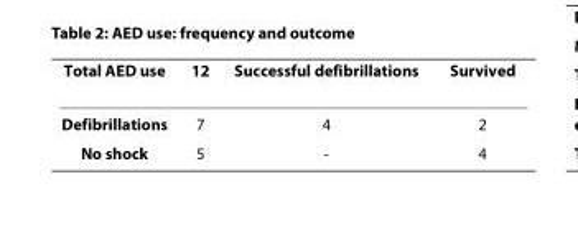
<table><thead><tr><td>Total AED use</td><td>12</td><td>Successful defibrillations</td><td>Survived</td></tr></thead><tbody><tr><td>Defibrillations</td><td>7</td><td>4</td><td>2</td></tr><tr><td>No shock</td><td>5</td><td>-</td><td>4</td></tr></tbody></table>